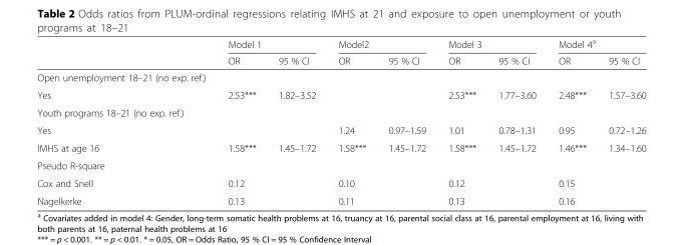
<table><thead><tr><td rowspan="2"></td><td colspan="2">Model 1</td><td colspan="2">Model2</td><td colspan="2">Model 3</td><td colspan="2">Model 4<sup>a</sup></td></tr><tr><td>OR</td><td>95 % CI</td><td>OR</td><td>95 % CI</td><td>OR</td><td>95 % CI</td><td>OR</td><td>95 % CI</td></tr></thead><tbody><tr><td colspan="9">Open unemployment 18–21 (no exp. ref.)</td></tr><tr><td>Yes</td><td>2.53***</td><td>1.82–3.52</td><td></td><td></td><td>2.53***</td><td>1.77–3.60</td><td>2.48***</td><td>1.57–3.60</td></tr><tr><td colspan="9">Youth programs 18–21 (no exp. ref.)</td></tr><tr><td>Yes</td><td></td><td></td><td>1.24</td><td>0.97–1.59</td><td>1.01</td><td>0.78–1.31</td><td>0.95</td><td>0.72–1.26</td></tr><tr><td>IMHS at age 16</td><td>1.58***</td><td>1.45–1.72</td><td>1.58***</td><td>1.45–1.72</td><td>1.58***</td><td>1.45–1.72</td><td>1.46***</td><td>1.34–1.60</td></tr><tr><td colspan="9">Pseudo R-square</td></tr><tr><td>Cox and Snell</td><td>0.12</td><td></td><td>0.10</td><td></td><td>0.12</td><td></td><td>0.15</td><td></td></tr><tr><td>Nagelkerke</td><td>0.13</td><td></td><td>0.11</td><td></td><td>0.13</td><td></td><td>0.16</td><td></td></tr></tbody></table>